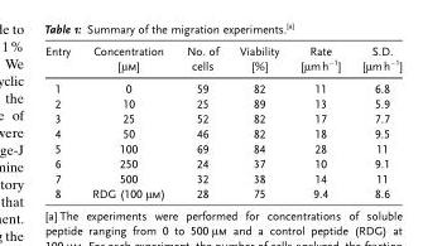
<table><thead><tr><td>Entry</td><td>Concentration [μm]</td><td>No. of cells</td><td>Viability [%]</td><td>Rate [μmh<sup>−1</sup>]</td><td>S.D. [μmh<sup>−1</sup>]</td></tr></thead><tbody><tr><td>1</td><td>0</td><td>59</td><td>82</td><td>11</td><td>6.8</td></tr><tr><td>2</td><td>10</td><td>25</td><td>89</td><td>13</td><td>5.9</td></tr><tr><td>3</td><td>25</td><td>52</td><td>82</td><td>17</td><td>7.7</td></tr><tr><td>4</td><td>50</td><td>46</td><td>82</td><td>18</td><td>9.5</td></tr><tr><td>5</td><td>100</td><td>69</td><td>84</td><td>28</td><td>11</td></tr><tr><td>6</td><td>250</td><td>24</td><td>37</td><td>10</td><td>9.1</td></tr><tr><td>7</td><td>500</td><td>32</td><td>38</td><td>14</td><td>11</td></tr><tr><td>8</td><td>RDG (100 μm)</td><td>28</td><td>75</td><td>9.4</td><td>8.6</td></tr></tbody></table>